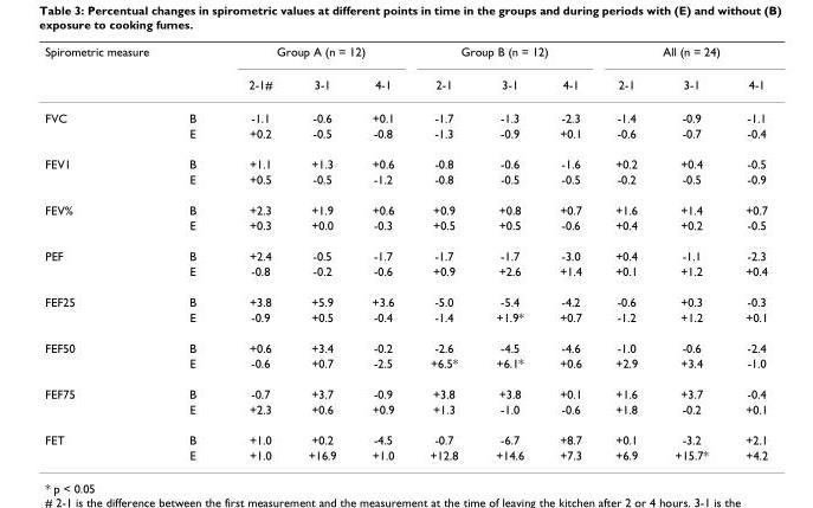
<table><thead><tr><td colspan="2">Spirometric measure</td><td colspan="3">Group A (n = 12)</td><td colspan="3">Group B (n = 12)</td><td colspan="3">All (n = 24)</td></tr><tr><td></td><td></td><td>2-1#</td><td>3-1</td><td>4-1</td><td>2-1</td><td>3-1</td><td>4-1</td><td>2-1</td><td>3-1</td><td>4-1</td></tr></thead><tbody><tr><td rowspan="2">FVC</td><td>B</td><td>-1.1</td><td>-0.6</td><td>+0.1</td><td>-1.7</td><td>-1.3</td><td>-2.3</td><td>-1.4</td><td>-0.9</td><td>-1.1</td></tr><tr><td>E</td><td>+0.2</td><td>-0.5</td><td>-0.8</td><td>-1.3</td><td>-0.9</td><td>+0.1</td><td>-0.6</td><td>-0.7</td><td>-0.4</td></tr><tr><td rowspan="2">FEV1</td><td>B</td><td>+1.1</td><td>+1.3</td><td>+0.6</td><td>-0.8</td><td>-0.6</td><td>-1.6</td><td>+0.2</td><td>+0.4</td><td>-0.5</td></tr><tr><td>E</td><td>+0.5</td><td>-0.5</td><td>-1.2</td><td>-0.8</td><td>-0.5</td><td>-0.5</td><td>-0.2</td><td>-0.5</td><td>-0.9</td></tr><tr><td rowspan="2">FEV%</td><td>B</td><td>+2.3</td><td>+1.9</td><td>+0.6</td><td>+0.9</td><td>+0.8</td><td>+0.7</td><td>+1.6</td><td>+1.4</td><td>+0.7</td></tr><tr><td>E</td><td>+0.3</td><td>+0.0</td><td>-0.3</td><td>+0.5</td><td>+0.5</td><td>-0.6</td><td>+0.4</td><td>+0.2</td><td>-0.5</td></tr><tr><td rowspan="2">PEF</td><td>B</td><td>+2.4</td><td>-0.5</td><td>-1.7</td><td>-1.7</td><td>-1.7</td><td>-3.0</td><td>+0.4</td><td>-1.1</td><td>-2.3</td></tr><tr><td>E</td><td>-0.8</td><td>-0.2</td><td>-0.6</td><td>+0.9</td><td>+2.6</td><td>+1.4</td><td>+0.1</td><td>+1.2</td><td>+0.4</td></tr><tr><td rowspan="2">FEF25</td><td>B</td><td>+3.8</td><td>+5.9</td><td>+3.6</td><td>-5.0</td><td>-5.4</td><td>-4.2</td><td>-0.6</td><td>+0.3</td><td>-0.3</td></tr><tr><td>E</td><td>-0.9</td><td>+0.5</td><td>-0.4</td><td>-1.4</td><td>+1.9*</td><td>+0.7</td><td>-1.2</td><td>+1.2</td><td>+0.1</td></tr><tr><td rowspan="2">FEF50</td><td>B</td><td>+0.6</td><td>+3.4</td><td>-0.2</td><td>-2.6</td><td>-4.5</td><td>-4.6</td><td>-1.0</td><td>-0.6</td><td>-2.4</td></tr><tr><td>E</td><td>-0.6</td><td>+0.7</td><td>-2.5</td><td>+6.5*</td><td>+6.1*</td><td>+0.6</td><td>+2.9</td><td>+3.4</td><td>-1.0</td></tr><tr><td rowspan="2">FEF75</td><td>B</td><td>-0.7</td><td>+3.7</td><td>-0.9</td><td>+3.8</td><td>+3.8</td><td>+0.1</td><td>+1.6</td><td>+3.7</td><td>-0.4</td></tr><tr><td>E</td><td>+2.3</td><td>+0.6</td><td>+0.9</td><td>+1.3</td><td>-1.0</td><td>-0.6</td><td>+1.8</td><td>-0.2</td><td>+0.1</td></tr><tr><td rowspan="2">FET</td><td>B</td><td>+1.0</td><td>+0.2</td><td>-4.5</td><td>-0.7</td><td>-6.7</td><td>+8.7</td><td>+0.1</td><td>-3.2</td><td>+2.1</td></tr><tr><td>E</td><td>+1.0</td><td>+16.9</td><td>+1.0</td><td>+12.8</td><td>+14.6</td><td>+7.3</td><td>+6.9</td><td>+15.7*</td><td>+4.2</td></tr></tbody></table>